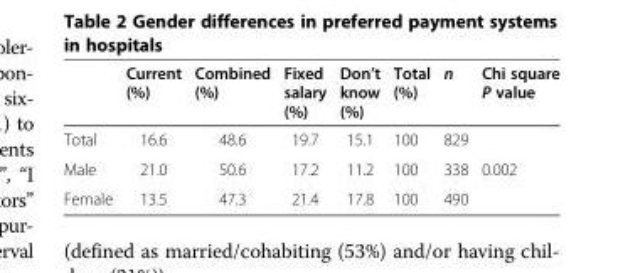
<table><thead><tr><td></td><td>Current (%)</td><td>Combined (%)</td><td>Fixed salary (%)</td><td>Don’t know (%)</td><td>Total (%)</td><td>n</td><td>Chi square P value</td></tr></thead><tbody><tr><td>Total</td><td>16.6</td><td>48.6</td><td>19.7</td><td>15.1</td><td>100</td><td>829</td><td></td></tr><tr><td>Male</td><td>21.0</td><td>50.6</td><td>17.2</td><td>11.2</td><td>100</td><td>338</td><td>0.002</td></tr><tr><td>Female</td><td>13.5</td><td>47.3</td><td>21.4</td><td>17.8</td><td>100</td><td>490</td><td></td></tr></tbody></table>